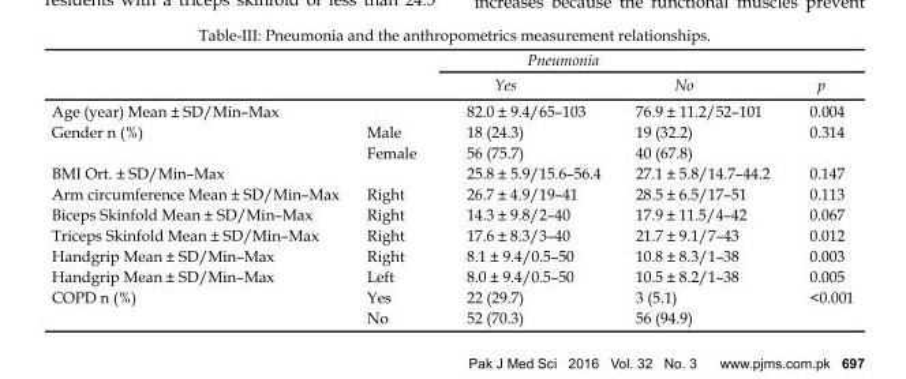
<table><thead><tr><td rowspan="2"></td><td rowspan="2"></td><td colspan="2">Pneumonia</td><td rowspan="2">p</td></tr><tr><td>Yes</td><td>No</td></tr></thead><tbody><tr><td>Age (year) Mean ± SD/Min–Max</td><td></td><td>82.0 ± 9.4/65–103</td><td>76.9 ± 11.2/52–101</td><td>0.004</td></tr><tr><td rowspan="2">Gender n (%)</td><td>Male</td><td>18 (24.3)</td><td>19 (32.2)</td><td>0.314</td></tr><tr><td>Female</td><td>56 (75.7)</td><td>40 (67.8)</td><td></td></tr><tr><td>BMI Ort. ± SD/Min–Max</td><td></td><td>25.8 ± 5.9/15.6–56.4</td><td>27.1 ± 5.8/14.7–44.2</td><td>0.147</td></tr><tr><td>Arm circumference Mean ± SD/Min–Max</td><td>Right</td><td>26.7 ± 4.9/19–41</td><td>28.5 ± 6.5/17–51</td><td>0.113</td></tr><tr><td>Biceps Skinfold Mean ± SD/Min–Max</td><td>Right</td><td>14.3 ± 9.8/2–40</td><td>17.9 ± 11.5/4–42</td><td>0.067</td></tr><tr><td>Triceps Skinfold Mean ± SD/Min–Max</td><td>Right</td><td>17.6 ± 8.3/3–40</td><td>21.7 ± 9.1/7–43</td><td>0.012</td></tr><tr><td>Handgrip Mean ± SD/Min–Max</td><td>Right</td><td>8.1 ± 9.4/0.5–50</td><td>10.8 ± 8.3/1–38</td><td>0.003</td></tr><tr><td>Handgrip Mean ± SD/Min–Max</td><td>Left</td><td>8.0 ± 9.4/0.5–50</td><td>10.5 ± 8.2/1–38</td><td>0.005</td></tr><tr><td rowspan="2">COPD n (%)</td><td>Yes</td><td>22 (29.7)</td><td>3 (5.1)</td><td>&lt;0.001</td></tr><tr><td>No</td><td>52 (70.3)</td><td>56 (94.9)</td><td></td></tr></tbody></table>